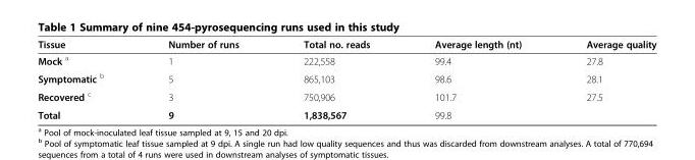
<table><thead><tr><td>Tissue</td><td>Number of runs</td><td>Total no. reads</td><td>Average length (nt)</td><td>Average quality</td></tr></thead><tbody><tr><td>Mock <sup>a</sup></td><td>1</td><td>222,558</td><td>99.4</td><td>27.8</td></tr><tr><td>Symptomatic <sup>b</sup></td><td>5</td><td>865,103</td><td>98.6</td><td>28.1</td></tr><tr><td>Recovered <sup>c</sup></td><td>3</td><td>750,906</td><td>101.7</td><td>27.5</td></tr><tr><td>Total</td><td>9</td><td>1,838,567</td><td>99.8</td><td></td></tr></tbody></table>